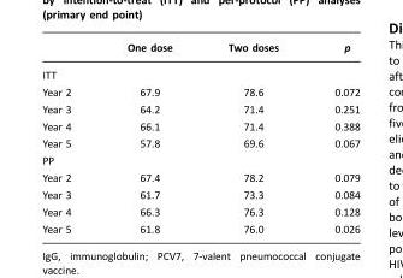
<table><thead><tr><td></td><td>One dose</td><td>Two doses</td><td>p</td></tr></thead><tbody><tr><td colspan="4">ITT</td></tr><tr><td>Year 2</td><td>67.9</td><td>78.6</td><td>0.072</td></tr><tr><td>Year 3</td><td>64.2</td><td>71.4</td><td>0.251</td></tr><tr><td>Year 4</td><td>66.1</td><td>71.4</td><td>0.388</td></tr><tr><td>Year 5</td><td>57.8</td><td>69.6</td><td>0.067</td></tr><tr><td colspan="4">PP</td></tr><tr><td>Year 2</td><td>67.4</td><td>78.2</td><td>0.079</td></tr><tr><td>Year 3</td><td>61.7</td><td>73.3</td><td>0.084</td></tr><tr><td>Year 4</td><td>66.3</td><td>76.3</td><td>0.128</td></tr><tr><td>Year 5</td><td>61.8</td><td>76.0</td><td>0.026</td></tr></tbody></table>